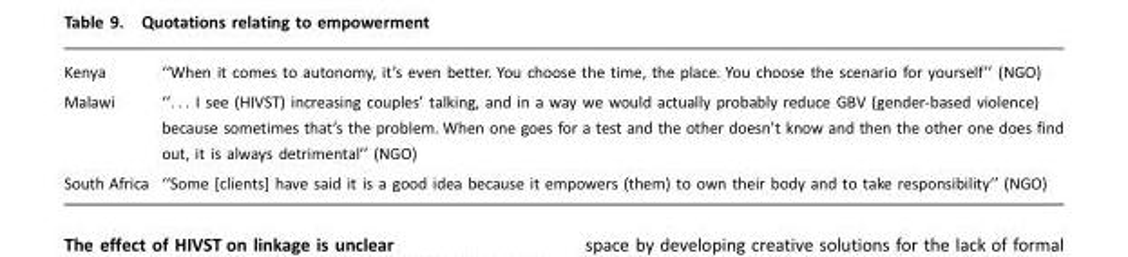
<table><tbody><tr><td>Kenya</td><td>‘‘When it comes to autonomy, it’s even better. You choose the time, the place. You choose the scenario for yourself’’ (NGO)</td></tr><tr><td>Malawi</td><td>‘‘. . . I see (HIVST) increasing couples’ talking, and in a way we would actually probably reduce GBV (gender-based violence) because sometimes that’s the problem. When one goes for a test and the other doesn’t know and then the other one does find out, it is always detrimental’’ (NGO)</td></tr><tr><td>South Africa</td><td>‘‘Some [clients] have said it is a good idea because it empowers (them) to own their body and to take responsibility’’ (NGO)</td></tr></tbody></table>